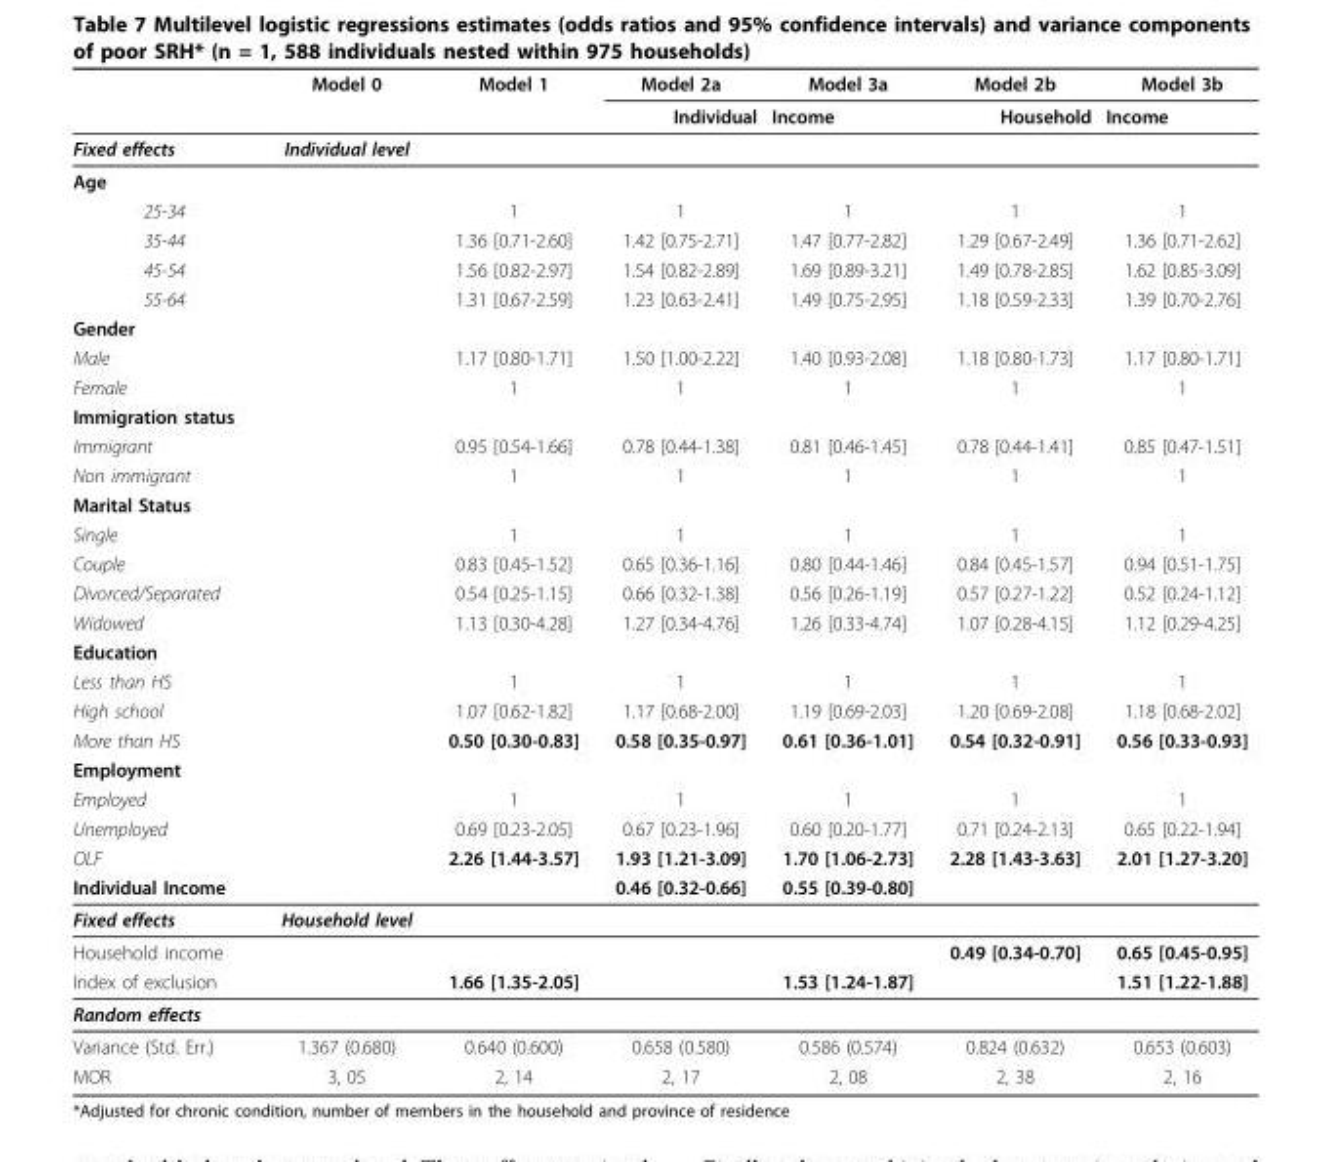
<table><thead><tr><td rowspan="2"></td><td rowspan="2">Model 0</td><td rowspan="2">Model 1</td><td rowspan="2">Model 2a Individual</td><td rowspan="2">Model 3a Income</td><td rowspan="2">Model 2b Household</td><td rowspan="2">Model 3b Income</td></tr><tr></tr></thead><tbody><tr><td>Fixed effects</td><td>Individual level</td><td></td><td></td><td></td><td></td><td></td></tr><tr><td colspan="7">Age</td></tr><tr><td>25-34</td><td></td><td>1</td><td>1</td><td>1</td><td>1</td><td>1</td></tr><tr><td>35-44</td><td></td><td>1.36 [0.71-2.60]</td><td>1.42 [0.75-2.71]</td><td>1.47 [0.77-2.82]</td><td>1.29 [0.67-2.49]</td><td>1.36 [0.71-2.62]</td></tr><tr><td>45-54</td><td></td><td>1.56 [0.82-2.97]</td><td>1.54 [0.82-2.89]</td><td>1.69 [0.89-3.21]</td><td>1.49 [0.78-2.85]</td><td>1.62 [0.85-3.09]</td></tr><tr><td>55-64</td><td></td><td>1.31 [0.67-2.59]</td><td>1.23 [0.63-2.41]</td><td>1.49 [0.75-2.95]</td><td>1.18 [0.59-2.33]</td><td>1.39 [0.70-2.76]</td></tr><tr><td colspan="7">Gender</td></tr><tr><td>Male</td><td></td><td>1.17 [0.80-1.71]</td><td>1.50 [1.00-2.22]</td><td>1.40 [0.93-2.08]</td><td>1.18 [0.80-1.73]</td><td>1.17 [0.80-1.71]</td></tr><tr><td>Female</td><td></td><td>1</td><td>1</td><td>1</td><td>1</td><td>1</td></tr><tr><td colspan="7">Immigration status</td></tr><tr><td>Immigrant</td><td></td><td>0.95 [0.54-1.66]</td><td>0.78 [0.44-1.38]</td><td>0.81 [0.46-1.45]</td><td>0.78 [0.44-1.41]</td><td>0.85 [0.47-1.51]</td></tr><tr><td>Non immigrant</td><td></td><td>1</td><td>1</td><td>1</td><td>1</td><td>1</td></tr><tr><td colspan="7">Marital Status</td></tr><tr><td>Single</td><td></td><td>1</td><td>1</td><td>1</td><td>1</td><td>1</td></tr><tr><td>Couple</td><td></td><td>0.83 [0.45-1.52]</td><td>0.65 [0.36-1.16]</td><td>0.80 [0.44-1.46]</td><td>0.84 [0.45-1.57]</td><td>0.94 [0.51-1.75]</td></tr><tr><td>Divorced/Separated</td><td></td><td>0.54 [0.25-1.15]</td><td>0.66 [0.32-1.38]</td><td>0.56 [0.26-1.19]</td><td>0.57 [0.27-1.22]</td><td>0.52 [0.24-1.12]</td></tr><tr><td>Widowed</td><td></td><td>1.13 [0.30-4.28]</td><td>1.27 [0.34-4.76]</td><td>1.26 [0.33-4.74]</td><td>1.07 [0.28-4.15]</td><td>1.12 [0.29-4.25]</td></tr><tr><td colspan="7">Education</td></tr><tr><td>Less than HS</td><td></td><td>1</td><td>1</td><td>1</td><td>1</td><td>1</td></tr><tr><td>High school</td><td></td><td>1.07 [0.62-1.82]</td><td>1.17 [0.68-2.00]</td><td>1.19 [0.69-2.03]</td><td>1.20 [0.69-2.08]</td><td>1.18 [0.68-2.02]</td></tr><tr><td>More than HS</td><td></td><td>0.50 [0.30-0.83]</td><td>0.58 [0.35-0.97]</td><td>0.61 [0.36-1.01]</td><td>0.54 [0.32-0.91]</td><td>0.56 [0.33-0.93]</td></tr><tr><td colspan="7">Employment</td></tr><tr><td>Employed</td><td></td><td>1</td><td>1</td><td>1</td><td>1</td><td>1</td></tr><tr><td>Unemployed</td><td></td><td>0.69 [0.23-2.05]</td><td>0.67 [0.23-1.96]</td><td>0.60 [0.20-1.77]</td><td>0.71 [0.24-2.13]</td><td>0.65 [0.22-1.94]</td></tr><tr><td>OLF</td><td></td><td>2.26 [1.44-3.57]</td><td>1.93 [1.21-3.09]</td><td>1.70 [1.06-2.73]</td><td>2.28 [1.43-3.63]</td><td>2.01 [1.27-3.20]</td></tr><tr><td>Individual Income</td><td></td><td></td><td>0.46 [0.32-0.66]</td><td>0.55 [0.39-0.80]</td><td></td><td></td></tr><tr><td>Fixed effects</td><td>Household level</td><td></td><td></td><td></td><td></td><td></td></tr><tr><td>Household income</td><td></td><td></td><td></td><td></td><td>0.49 [0.34-0.70]</td><td>0.65 [0.45-0.95]</td></tr><tr><td>Index of exclusion</td><td></td><td>1.66 [1.35-2.05]</td><td></td><td>1.53 [1.24-1.87]</td><td></td><td>1.51 [1.22-1.88]</td></tr><tr><td colspan="7">Random effects</td></tr><tr><td>Variance (Std. Err.)</td><td>1.367 (0.680)</td><td>0.640 (0.600)</td><td>0.658 (0.580)</td><td>0.586 (0.574)</td><td>0.824 (0.632)</td><td>0.653 (0.603)</td></tr><tr><td>MOR</td><td>3, 05</td><td>2, 14</td><td>2, 17</td><td>2, 08</td><td>2, 38</td><td>2, 16</td></tr></tbody></table>